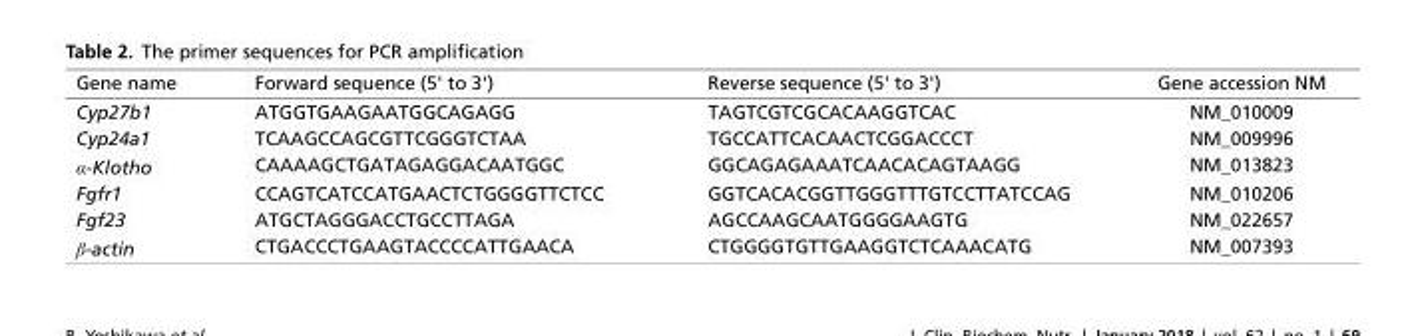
<table><thead><tr><td>Gene name</td><td>Forward sequence (5&#x27; to 3&#x27;)</td><td>Reverse sequence (5&#x27; to 3&#x27;)</td><td>Gene accession NM</td></tr></thead><tbody><tr><td>Cyp27b1</td><td>ATGGTGAAGAATGGCAGAGG</td><td>TAGTCGTCGCACAAGGTCAC</td><td>NM_010009</td></tr><tr><td>Cyp24a1</td><td>TCAAGCCAGCGTTCGGGTCTAA</td><td>TGCCATTCACAACTCGGACCCT</td><td>NM_009996</td></tr><tr><td>α-Klotho</td><td>CAAAAGCTGATAGAGGACAATGGC</td><td>GGCAGAGAAATCAACACAGTAAGG</td><td>NM_013823</td></tr><tr><td>Fgfr1</td><td>CCAGTCATCCATGAACTCTGGGGTTCTCC</td><td>GGTCACACGGTTGGGTTTGTCCTTATCCAG</td><td>NM_010206</td></tr><tr><td>Fgf23</td><td>ATGCTAGGGACCTGCCTTAGA</td><td>AGCCAAGCAATGGGGAAGTG</td><td>NM_022657</td></tr><tr><td>β-actin</td><td>CTGACCCTGAAGTACCCCATTGAACA</td><td>CTGGGGTGTTGAAGGTCTCAAACATG</td><td>NM_007393</td></tr></tbody></table>